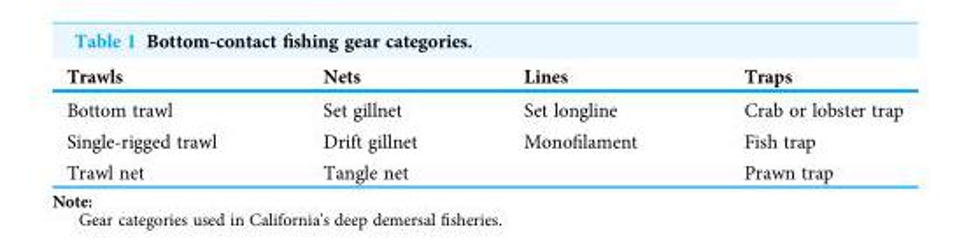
<table><thead><tr><td>Trawls</td><td>Nets</td><td>Lines</td><td>Traps</td></tr></thead><tbody><tr><td>Bottom trawl</td><td>Set gillnet</td><td>Set longline</td><td>Crab or lobster trap</td></tr><tr><td>Single-rigged trawl</td><td>Drift gillnet</td><td>Monofilament</td><td>Fish trap</td></tr><tr><td>Trawl net</td><td>Tangle net</td><td></td><td>Prawn trap</td></tr></tbody></table>